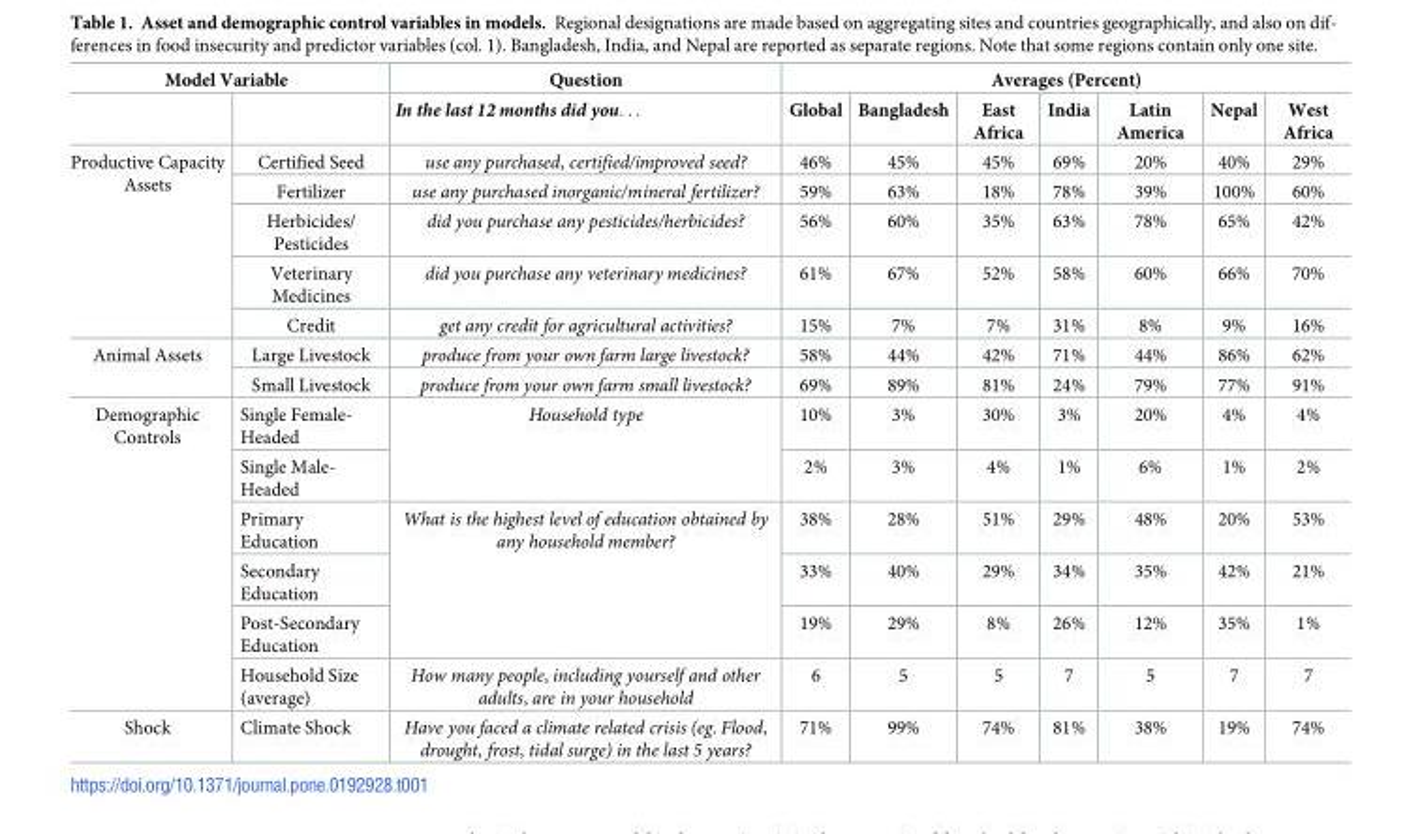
<table><thead><tr><td colspan="2">Model Variable</td><td rowspan="2">Question In the last 12 months did you. . .</td><td colspan="7">Averages (Percent)</td></tr><tr><td></td><td></td><td>Global</td><td>Bangladesh</td><td>East Africa</td><td>India</td><td>Latin America</td><td>Nepal</td><td>West Africa</td></tr></thead><tbody><tr><td rowspan="5">Productive Capacity Assets</td><td>Certified Seed</td><td>use any purchased, certified/improved seed?</td><td>46%</td><td>45%</td><td>45%</td><td>69%</td><td>20%</td><td>40%</td><td>29%</td></tr><tr><td>Fertilizer</td><td>use any purchased inorganic/mineral fertilizer?</td><td>59%</td><td>63%</td><td>18%</td><td>78%</td><td>39%</td><td>100%</td><td>60%</td></tr><tr><td>Herbicides/ Pesticides</td><td>did you purchase any pesticides/herbicides?</td><td>56%</td><td>60%</td><td>35%</td><td>63%</td><td>78%</td><td>65%</td><td>42%</td></tr><tr><td>Veterinary Medicines</td><td>did you purchase any veterinary medicines?</td><td>61%</td><td>67%</td><td>52%</td><td>58%</td><td>60%</td><td>66%</td><td>70%</td></tr><tr><td>Credit</td><td>get any credit for agricultural activities?</td><td>15%</td><td>7%</td><td>7%</td><td>31%</td><td>8%</td><td>9%</td><td>16%</td></tr><tr><td rowspan="2">Animal Assets</td><td>Large Livestock</td><td>produce from your own farm large livestock?</td><td>58%</td><td>44%</td><td>42%</td><td>71%</td><td>44%</td><td>86%</td><td>62%</td></tr><tr><td>Small Livestock</td><td>produce from your own farm small livestock?</td><td>69%</td><td>89%</td><td>81%</td><td>24%</td><td>79%</td><td>77%</td><td>91%</td></tr><tr><td rowspan="6">Demographic Controls</td><td>Single Female- Headed</td><td rowspan="2">Household type</td><td>10%</td><td>3%</td><td>30%</td><td>3%</td><td>20%</td><td>4%</td><td>4%</td></tr><tr><td>Single Male- Headed</td><td>2%</td><td>3%</td><td>4%</td><td>1%</td><td>6%</td><td>1%</td><td>2%</td></tr><tr><td>Primary Education</td><td rowspan="3">What is the highest level of education obtained by any household member?</td><td>38%</td><td>28%</td><td>51%</td><td>29%</td><td>48%</td><td>20%</td><td>53%</td></tr><tr><td>Secondary Education</td><td>33%</td><td>40%</td><td>29%</td><td>34%</td><td>35%</td><td>42%</td><td>21%</td></tr><tr><td>Post-Secondary Education</td><td>19%</td><td>29%</td><td>8%</td><td>26%</td><td>12%</td><td>35%</td><td>1%</td></tr><tr><td>Household Size (average)</td><td>How many people, including yourself and other adults, are in your household</td><td>6</td><td>5</td><td>5</td><td>7</td><td>5</td><td>7</td><td>7</td></tr><tr><td>Shock</td><td>Climate Shock</td><td>Have you faced a climate related crisis (eg. Flood, drought, frost, tidal surge) in the last 5 years?</td><td>71%</td><td>99%</td><td>74%</td><td>81%</td><td>38%</td><td>19%</td><td>74%</td></tr></tbody></table>